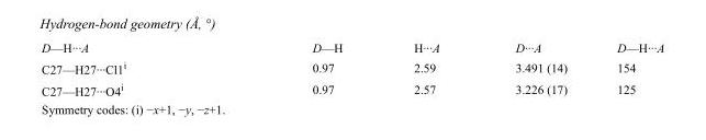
<table><tbody><tr><td>D—H···A</td><td>D—H</td><td>H···A</td><td>D···A</td><td>D—H···A</td></tr><tr><td>C27—H27···Cl1<sup>i</sup></td><td>0.97</td><td>2.59</td><td>3.491 (14)</td><td>154</td></tr><tr><td>C27—H27···O4<sup>i</sup></td><td>0.97</td><td>2.57</td><td>3.226 (17)</td><td>125</td></tr></tbody></table>